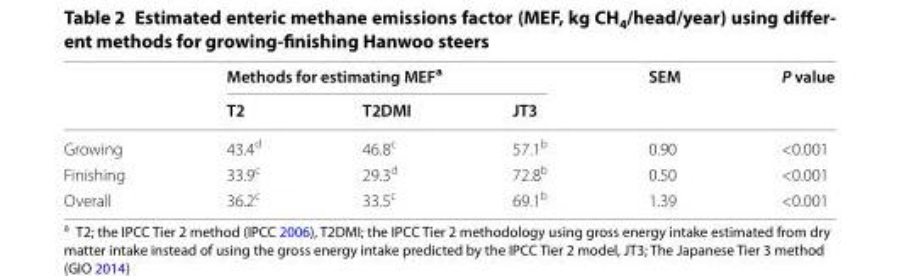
<table><thead><tr><td rowspan="2"></td><td colspan="3">Methods for estimating MEF<sup>a</sup></td><td rowspan="2">SEM</td><td rowspan="2">P value</td></tr><tr><td>T2</td><td>T2DMI</td><td>JT3</td></tr></thead><tbody><tr><td>Growing</td><td>43.4<sup>d</sup></td><td>46.8<sup>c</sup></td><td>57.1<sup>b</sup></td><td>0.90</td><td>&lt;0.001</td></tr><tr><td>Finishing</td><td>33.9<sup>c</sup></td><td>29.3<sup>d</sup></td><td>72.8<sup>b</sup></td><td>0.50</td><td>&lt;0.001</td></tr><tr><td>Overall</td><td>36.2<sup>c</sup></td><td>33.5<sup>c</sup></td><td>69.1<sup>b</sup></td><td>1.39</td><td>&lt;0.001</td></tr></tbody></table>